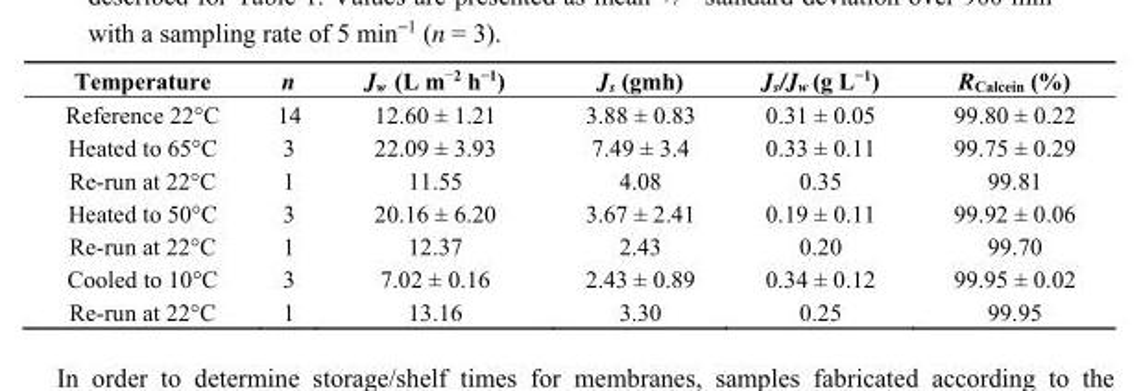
<table><thead><tr><td>Temperature</td><td>n</td><td>J<sub>w</sub> (L m<sup>−2</sup> h<sup>−1</sup>)</td><td>J<sub>s</sub> (gmh)</td><td>J<sub>s</sub>/J<sub>w</sub> (g L<sup>−1</sup>)</td><td>R<sub>Calcein</sub> (%)</td></tr></thead><tbody><tr><td>Reference 22°C</td><td>14</td><td>12.60 ± 1.21</td><td>3.88 ± 0.83</td><td>0.31 ± 0.05</td><td>99.80 ± 0.22</td></tr><tr><td>Heated to 65°C</td><td>3</td><td>22.09 ± 3.93</td><td>7.49 ± 3.4</td><td>0.33 ± 0.11</td><td>99.75 ± 0.29</td></tr><tr><td>Re-run at 22°C</td><td>1</td><td>11.55</td><td>4.08</td><td>0.35</td><td>99.81</td></tr><tr><td>Heated to 50°C</td><td>3</td><td>20.16 ± 6.20</td><td>3.67 ± 2.41</td><td>0.19 ± 0.11</td><td>99.92 ± 0.06</td></tr><tr><td>Re-run at 22°C</td><td>1</td><td>12.37</td><td>2.43</td><td>0.20</td><td>99.70</td></tr><tr><td>Cooled to 10°C</td><td>3</td><td>7.02 ± 0.16</td><td>2.43 ± 0.89</td><td>0.34 ± 0.12</td><td>99.95 ± 0.02</td></tr><tr><td>Re-run at 22°C</td><td>1</td><td>13.16</td><td>3.30</td><td>0.25</td><td>99.95</td></tr></tbody></table>